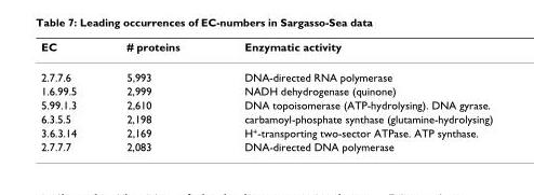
<table><thead><tr><td>EC</td><td># proteins</td><td>Enzymatic activity</td></tr></thead><tbody><tr><td>2.7.7.6</td><td>5,993</td><td>DNA-directed RNA polymerase</td></tr><tr><td>1.6.99.5</td><td>2,999</td><td>NADH dehydrogenase (quinone)</td></tr><tr><td>5.99.1.3</td><td>2,610</td><td>DNA topoisomerase (ATP-hydrolysing). DNA gyrase.</td></tr><tr><td>6.3.5.5</td><td>2,198</td><td>carbamoyl-phosphate synthase (glutamine-hydrolysing)</td></tr><tr><td>3.6.3.14</td><td>2,169</td><td>H<sup>+</sup>-transporting two-sector ATPase. ATP synthase.</td></tr><tr><td>2.7.7.7</td><td>2,083</td><td>DNA-directed DNA polymerase</td></tr></tbody></table>